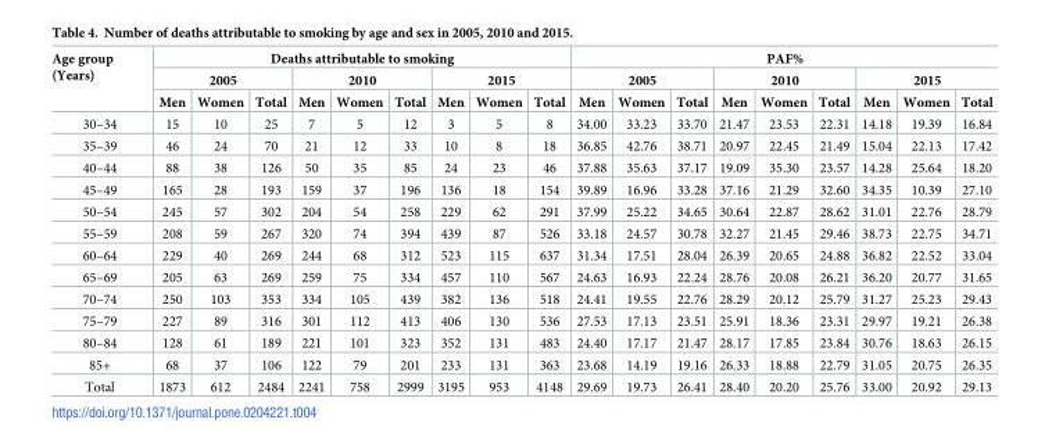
<table><thead><tr><td rowspan="3">Age group (Years)</td><td colspan="9">Deaths attributable to smoking</td><td colspan="9">PAF%</td></tr><tr><td colspan="3">2005</td><td colspan="3">2010</td><td colspan="3">2015</td><td colspan="3">2005</td><td colspan="3">2010</td><td colspan="3">2015</td></tr><tr><td>Men</td><td>Women</td><td>Total</td><td>Men</td><td>Women</td><td>Total</td><td>Men</td><td>Women</td><td>Total</td><td>Men</td><td>Women</td><td>Total</td><td>Men</td><td>Women</td><td>Total</td><td>Men</td><td>Women</td><td>Total</td></tr></thead><tbody><tr><td>30–34</td><td>15</td><td>10</td><td>25</td><td>7</td><td>5</td><td>12</td><td>3</td><td>5</td><td>8</td><td>34.00</td><td>33.23</td><td>33.70</td><td>21.47</td><td>23.53</td><td>22.31</td><td>14.18</td><td>19.39</td><td>16.84</td></tr><tr><td>35–39</td><td>46</td><td>24</td><td>70</td><td>21</td><td>12</td><td>33</td><td>10</td><td>8</td><td>18</td><td>36.85</td><td>42.76</td><td>38.71</td><td>20.97</td><td>22.45</td><td>21.49</td><td>15.04</td><td>22.13</td><td>17.42</td></tr><tr><td>40–44</td><td>88</td><td>38</td><td>126</td><td>50</td><td>35</td><td>85</td><td>24</td><td>23</td><td>46</td><td>37.88</td><td>35.63</td><td>37.17</td><td>19.09</td><td>35.30</td><td>23.57</td><td>14.28</td><td>25.64</td><td>18.20</td></tr><tr><td>45–49</td><td>165</td><td>28</td><td>193</td><td>159</td><td>37</td><td>196</td><td>136</td><td>18</td><td>154</td><td>39.89</td><td>16.96</td><td>33.28</td><td>37.16</td><td>21.29</td><td>32.60</td><td>34.35</td><td>10.39</td><td>27.10</td></tr><tr><td>50–54</td><td>245</td><td>57</td><td>302</td><td>204</td><td>54</td><td>258</td><td>229</td><td>62</td><td>291</td><td>37.99</td><td>25.22</td><td>34.65</td><td>30.64</td><td>22.87</td><td>28.62</td><td>31.01</td><td>22.76</td><td>28.79</td></tr><tr><td>55–59</td><td>208</td><td>59</td><td>267</td><td>320</td><td>74</td><td>394</td><td>439</td><td>87</td><td>526</td><td>33.18</td><td>24.57</td><td>30.78</td><td>32.27</td><td>21.45</td><td>29.46</td><td>38.73</td><td>22.75</td><td>34.71</td></tr><tr><td>60–64</td><td>229</td><td>40</td><td>269</td><td>244</td><td>68</td><td>312</td><td>523</td><td>115</td><td>637</td><td>31.34</td><td>17.51</td><td>28.04</td><td>26.39</td><td>20.65</td><td>24.88</td><td>36.82</td><td>22.52</td><td>33.04</td></tr><tr><td>65–69</td><td>205</td><td>63</td><td>269</td><td>259</td><td>75</td><td>334</td><td>457</td><td>110</td><td>567</td><td>24.63</td><td>16.93</td><td>22.24</td><td>28.76</td><td>20.08</td><td>26.21</td><td>36.20</td><td>20.77</td><td>31.65</td></tr><tr><td>70–74</td><td>250</td><td>103</td><td>353</td><td>334</td><td>105</td><td>439</td><td>382</td><td>136</td><td>518</td><td>24.41</td><td>19.55</td><td>22.76</td><td>28.29</td><td>20.12</td><td>25.79</td><td>31.27</td><td>25.23</td><td>29.43</td></tr><tr><td>75–79</td><td>227</td><td>89</td><td>316</td><td>301</td><td>112</td><td>413</td><td>406</td><td>130</td><td>536</td><td>27.53</td><td>17.13</td><td>23.51</td><td>25.91</td><td>18.36</td><td>23.31</td><td>29.97</td><td>19.21</td><td>26.38</td></tr><tr><td>80–84</td><td>128</td><td>61</td><td>189</td><td>221</td><td>101</td><td>323</td><td>352</td><td>131</td><td>483</td><td>24.40</td><td>17.17</td><td>21.47</td><td>28.17</td><td>17.85</td><td>23.84</td><td>30.76</td><td>18.63</td><td>26.15</td></tr><tr><td>85+</td><td>68</td><td>37</td><td>106</td><td>122</td><td>79</td><td>201</td><td>233</td><td>131</td><td>363</td><td>23.68</td><td>14.19</td><td>19.16</td><td>26.33</td><td>18.88</td><td>22.79</td><td>31.05</td><td>20.75</td><td>26.35</td></tr><tr><td>Total</td><td>1873</td><td>612</td><td>2484</td><td>2241</td><td>758</td><td>2999</td><td>3195</td><td>953</td><td>4148</td><td>29.69</td><td>19.73</td><td>26.41</td><td>28.40</td><td>20.20</td><td>25.76</td><td>33.00</td><td>20.92</td><td>29.13</td></tr></tbody></table>